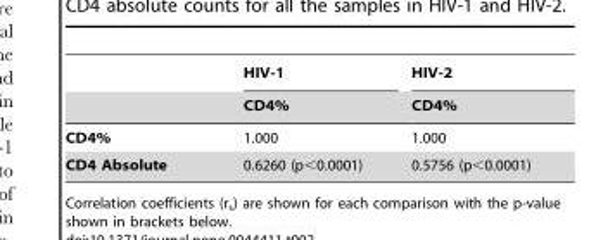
<table><thead><tr><td rowspan="2"></td><td rowspan="2">HIV-1 CD4%</td><td rowspan="2">HIV-2 CD4%</td></tr><tr></tr></thead><tbody><tr><td>CD4%</td><td>1.000</td><td>1.000</td></tr><tr><td>CD4 Absolute</td><td>0.6260 (p&lt;0.0001)</td><td>0.5756 (p&lt;0.0001)</td></tr></tbody></table>